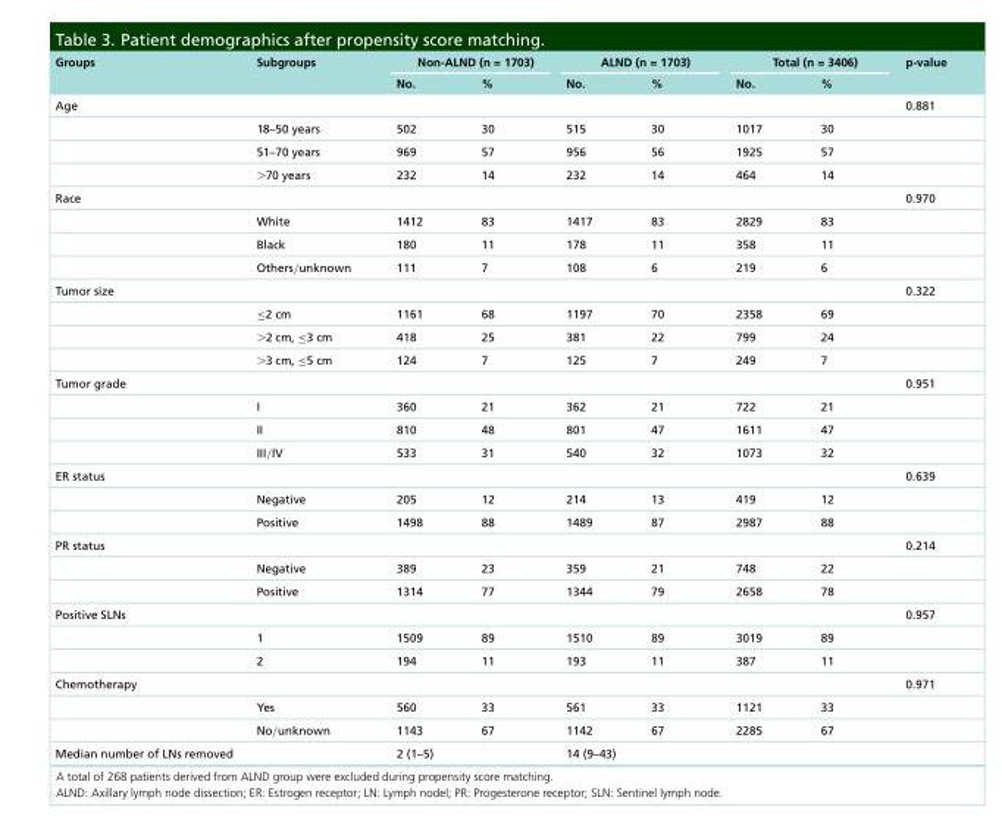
<table><thead><tr><td rowspan="2">Groups</td><td rowspan="2">Subgroups</td><td colspan="2">Non-ALND (n = 1703)</td><td colspan="2">ALND (n = 1703)</td><td colspan="2">Total (n = 3406)</td><td rowspan="2">p-value</td></tr><tr><td>No.</td><td>%</td><td>No.</td><td>%</td><td>No.</td><td>%</td></tr></thead><tbody><tr><td rowspan="4">Age</td><td></td><td></td><td></td><td></td><td></td><td></td><td></td><td>0.881</td></tr><tr><td>18–50 years</td><td>502</td><td>30</td><td>515</td><td>30</td><td>1017</td><td>30</td><td></td></tr><tr><td>51–70 years</td><td>969</td><td>57</td><td>956</td><td>56</td><td>1925</td><td>57</td><td></td></tr><tr><td>&gt;70 years</td><td>232</td><td>14</td><td>232</td><td>14</td><td>464</td><td>14</td><td></td></tr><tr><td rowspan="4">Race</td><td></td><td></td><td></td><td></td><td></td><td></td><td></td><td>0.970</td></tr><tr><td>White</td><td>1412</td><td>83</td><td>1417</td><td>83</td><td>2829</td><td>83</td><td></td></tr><tr><td>Black</td><td>180</td><td>11</td><td>178</td><td>11</td><td>358</td><td>11</td><td></td></tr><tr><td>Others/unknown</td><td>111</td><td>7</td><td>108</td><td>6</td><td>219</td><td>6</td><td></td></tr><tr><td rowspan="4">Tumor size</td><td></td><td></td><td></td><td></td><td></td><td></td><td></td><td>0.322</td></tr><tr><td>≤2 cm</td><td>1161</td><td>68</td><td>1197</td><td>70</td><td>2358</td><td>69</td><td></td></tr><tr><td>&gt;2 cm, ≤3 cm</td><td>418</td><td>25</td><td>381</td><td>22</td><td>799</td><td>24</td><td></td></tr><tr><td>&gt;3 cm, ≤5 cm</td><td>124</td><td>7</td><td>125</td><td>7</td><td>249</td><td>7</td><td></td></tr><tr><td rowspan="4">Tumor grade</td><td></td><td></td><td></td><td></td><td></td><td></td><td></td><td>0.951</td></tr><tr><td>I</td><td>360</td><td>21</td><td>362</td><td>21</td><td>722</td><td>21</td><td></td></tr><tr><td>II</td><td>810</td><td>48</td><td>801</td><td>47</td><td>1611</td><td>47</td><td></td></tr><tr><td>III/IV</td><td>533</td><td>31</td><td>540</td><td>32</td><td>1073</td><td>32</td><td></td></tr><tr><td rowspan="3">ER status</td><td></td><td></td><td></td><td></td><td></td><td></td><td></td><td>0.639</td></tr><tr><td>Negative</td><td>205</td><td>12</td><td>214</td><td>13</td><td>419</td><td>12</td><td></td></tr><tr><td>Positive</td><td>1498</td><td>88</td><td>1489</td><td>87</td><td>2987</td><td>88</td><td></td></tr><tr><td rowspan="3">PR status</td><td></td><td></td><td></td><td></td><td></td><td></td><td></td><td>0.214</td></tr><tr><td>Negative</td><td>389</td><td>23</td><td>359</td><td>21</td><td>748</td><td>22</td><td></td></tr><tr><td>Positive</td><td>1314</td><td>77</td><td>1344</td><td>79</td><td>2658</td><td>78</td><td></td></tr><tr><td rowspan="3">Positive SLNs</td><td></td><td></td><td></td><td></td><td></td><td></td><td></td><td>0.957</td></tr><tr><td>1</td><td>1509</td><td>89</td><td>1510</td><td>89</td><td>3019</td><td>89</td><td></td></tr><tr><td>2</td><td>194</td><td>11</td><td>193</td><td>11</td><td>387</td><td>11</td><td></td></tr><tr><td rowspan="3">Chemotherapy</td><td></td><td></td><td></td><td></td><td></td><td></td><td></td><td>0.971</td></tr><tr><td>Yes</td><td>560</td><td>33</td><td>561</td><td>33</td><td>1121</td><td>33</td><td></td></tr><tr><td>No/unknown</td><td>1143</td><td>67</td><td>1142</td><td>67</td><td>2285</td><td>67</td><td></td></tr><tr><td>Median number of LNs removed</td><td></td><td>2 (1–5)</td><td></td><td>14 (9–43)</td><td></td><td></td><td></td><td></td></tr></tbody></table>